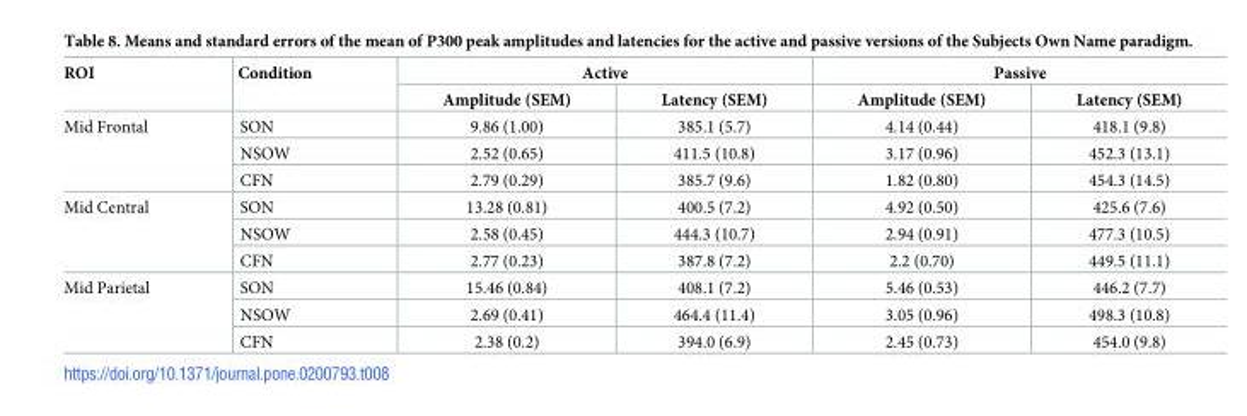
<table><thead><tr><td rowspan="2">ROI</td><td rowspan="2">Condition</td><td colspan="2">Active</td><td colspan="2">Passive</td></tr><tr><td>Amplitude (SEM)</td><td>Latency (SEM)</td><td>Amplitude (SEM)</td><td>Latency (SEM)</td></tr></thead><tbody><tr><td rowspan="3">Mid Frontal</td><td>SON</td><td>9.86 (1.00)</td><td>385.1 (5.7)</td><td>4.14 (0.44)</td><td>418.1 (9.8)</td></tr><tr><td>NSOW</td><td>2.52 (0.65)</td><td>411.5 (10.8)</td><td>3.17 (0.96)</td><td>452.3 (13.1)</td></tr><tr><td>CFN</td><td>2.79 (0.29)</td><td>385.7 (9.6)</td><td>1.82 (0.80)</td><td>454.3 (14.5)</td></tr><tr><td rowspan="3">Mid Central</td><td>SON</td><td>13.28 (0.81)</td><td>400.5 (7.2)</td><td>4.92 (0.50)</td><td>425.6 (7.6)</td></tr><tr><td>NSOW</td><td>2.58 (0.45)</td><td>444.3 (10.7)</td><td>2.94 (0.91)</td><td>477.3 (10.5)</td></tr><tr><td>CFN</td><td>2.77 (0.23)</td><td>387.8 (7.2)</td><td>2.2 (0.70)</td><td>449.5 (11.1)</td></tr><tr><td rowspan="3">Mid Parietal</td><td>SON</td><td>15.46 (0.84)</td><td>408.1 (7.2)</td><td>5.46 (0.53)</td><td>446.2 (7.7)</td></tr><tr><td>NSOW</td><td>2.69 (0.41)</td><td>464.4 (11.4)</td><td>3.05 (0.96)</td><td>498.3 (10.8)</td></tr><tr><td>CFN</td><td>2.38 (0.2)</td><td>394.0 (6.9)</td><td>2.45 (0.73)</td><td>454.0 (9.8)</td></tr></tbody></table>